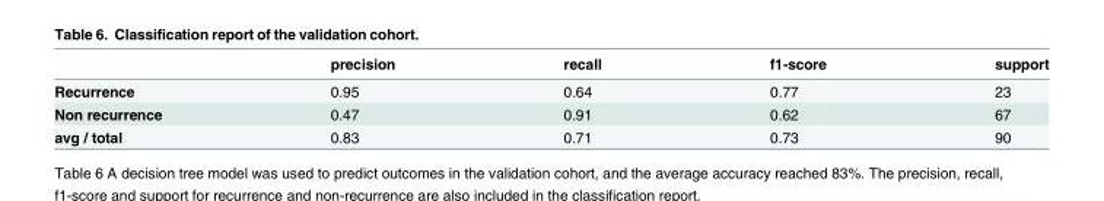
<table><thead><tr><td></td><td>precision</td><td>recall</td><td>f1-score</td><td>support</td></tr></thead><tbody><tr><td>Recurrence</td><td>0.95</td><td>0.64</td><td>0.77</td><td>23</td></tr><tr><td>Non recurrence</td><td>0.47</td><td>0.91</td><td>0.62</td><td>67</td></tr><tr><td>avg / total</td><td>0.83</td><td>0.71</td><td>0.73</td><td>90</td></tr></tbody></table>